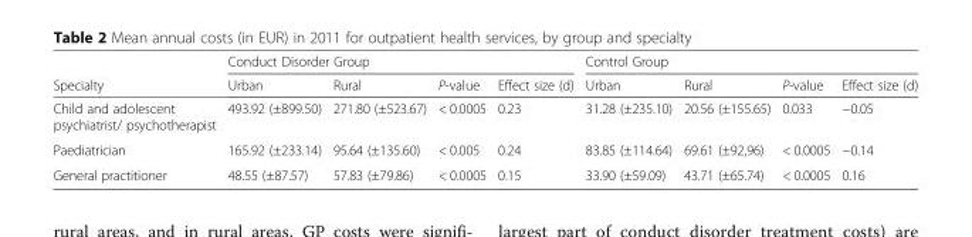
<table><thead><tr><td rowspan="2">Specialty</td><td colspan="4">Conduct Disorder Group</td><td colspan="4">Control Group</td></tr><tr><td>Urban</td><td>Rural</td><td>P-value</td><td>Effect size (d)</td><td>Urban</td><td>Rural</td><td>P-value</td><td>Effect size (d)</td></tr></thead><tbody><tr><td>Child and adolescent psychiatrist/ psychotherapist</td><td>493.92 (±899.50)</td><td>271.80 (±523.67)</td><td>&lt; 0.0005</td><td>0.23</td><td>31.28 (±235.10)</td><td>20.56 (±155.65)</td><td>0.033</td><td>−0.05</td></tr><tr><td>Paediatrician</td><td>165.92 (±233.14)</td><td>95.64 (±135.60)</td><td>&lt; 0.005</td><td>0.24</td><td>83.85 (±114.64)</td><td>69.61 (±92,96)</td><td>&lt; 0.0005</td><td>−0.14</td></tr><tr><td>General practitioner</td><td>48.55 (±87.57)</td><td>57.83 (±79.86)</td><td>&lt; 0.0005</td><td>0.15</td><td>33.90 (±59.09)</td><td>43.71 (±65.74)</td><td>&lt; 0.0005</td><td>0.16</td></tr></tbody></table>